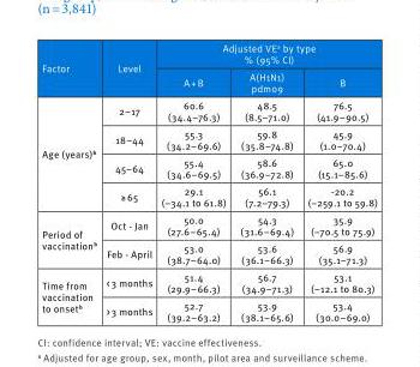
<table><thead><tr><td rowspan="2">Factor</td><td rowspan="2">Level</td><td colspan="3">Adjusted VE<sup>a</sup> by type % (95% CI)</td></tr><tr><td>A + B</td><td>A(H1N1) pdm09</td><td>B</td></tr></thead><tbody><tr><td rowspan="4">Age (years)<sup>b</sup></td><td>2–17</td><td>60.6 (34.4–76.3)</td><td>48.5 (8.5–71.0)</td><td>76.5 (41.9–90.5)</td></tr><tr><td>18–44</td><td>55.3 (34.2–69.6)</td><td>59.8 (35.8–74.8)</td><td>45.9 (1.0–70.4)</td></tr><tr><td>45–64</td><td>55.4 (34.6–69.5)</td><td>58.6 (36.9–72.8)</td><td>65.0 (15.1–85.6)</td></tr><tr><td>≥ 65</td><td>29.1 (−34.1 to 61.8)</td><td>56.1 (7.2–79.3)</td><td>-20.2 (−259.1 to 59.8)</td></tr><tr><td rowspan="2">Period of vaccination<sup>b</sup></td><td>Oct - Jan</td><td>50.0 (27.6–65.4)</td><td>54.3 (31.6–69.4)</td><td>35.9 (−70.5 to 75.9)</td></tr><tr><td>Feb - April</td><td>53.0 (38.7–64.0)</td><td>53.6 (36.1–66.3)</td><td>56.9 (35.1–71.3)</td></tr><tr><td rowspan="2">Time from vaccination to onset<sup>b</sup></td><td>&lt; 3 months</td><td>51.4 (29.9–66.3)</td><td>56.7 (34.9–71.3)</td><td>53.1 (−12.1 to 80.3)</td></tr><tr><td>&gt; 3 months</td><td>52.7 (39.2–63.2)</td><td>53.9 (38.1–65.6)</td><td>53.4 (30.0–69.0)</td></tr></tbody></table>